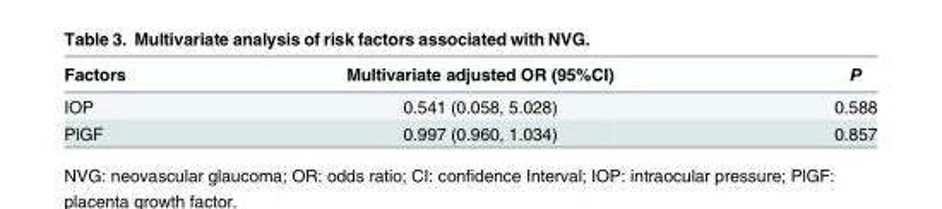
<table><thead><tr><td>Factors</td><td>Multivariate adjusted OR (95%CI)</td><td>P</td></tr></thead><tbody><tr><td>IOP</td><td>0.541 (0.058, 5.028)</td><td>0.588</td></tr><tr><td>PlGF</td><td>0.997 (0.960, 1.034)</td><td>0.857</td></tr></tbody></table>